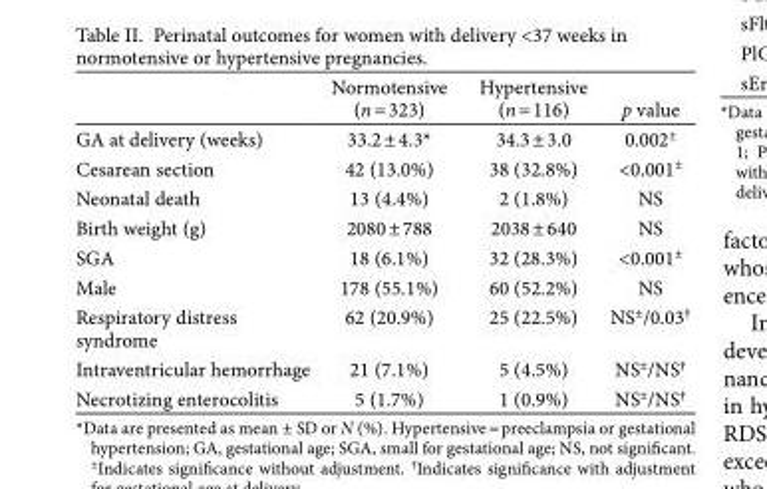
<table><thead><tr><td></td><td>Normotensive (n = 323)</td><td>Hypertensive (n = 116)</td><td>p value</td></tr></thead><tbody><tr><td>GA at delivery (weeks)</td><td>33.2 ± 4.3*</td><td>34.3 ± 3.0</td><td>0.002±</td></tr><tr><td>Cesarean section</td><td>42 (13.0%)</td><td>38 (32.8%)</td><td>&lt;0.001±</td></tr><tr><td>Neonatal death</td><td>13 (4.4%)</td><td>2 (1.8%)</td><td>NS</td></tr><tr><td>Birth weight (g)</td><td>2080 ± 788</td><td>2038 ± 640</td><td>NS</td></tr><tr><td>SGA</td><td>18 (6.1%)</td><td>32 (28.3%)</td><td>&lt;0.001±</td></tr><tr><td>Male</td><td>178 (55.1%)</td><td>60 (52.2%)</td><td>NS</td></tr><tr><td>Respiratory distress syndrome</td><td>62 (20.9%)</td><td>25 (22.5%)</td><td>NS±/0.03†</td></tr><tr><td>Intraventricular hemorrhage</td><td>21 (7.1%)</td><td>5 (4.5%)</td><td>NS±/NS†</td></tr><tr><td>Necrotizing enterocolitis</td><td>5 (1.7%)</td><td>1 (0.9%)</td><td>NS±/NS†</td></tr></tbody></table>